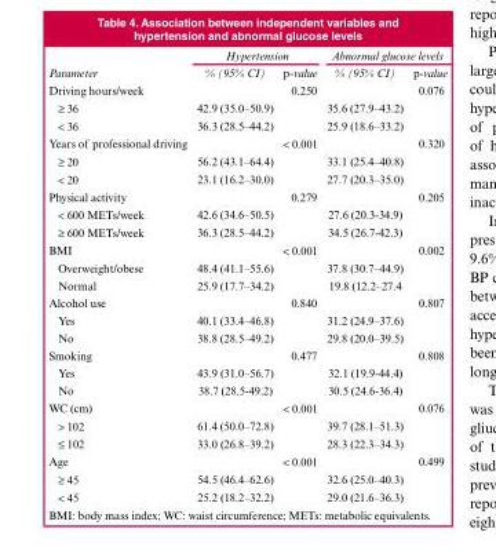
<table><thead><tr><td rowspan="2">Parameter</td><td colspan="2">Hypertension</td><td colspan="2">Abnormal glucose levels</td></tr><tr><td>% (95% CI)</td><td>p-value</td><td>% (95% CI)</td><td>p-value</td></tr></thead><tbody><tr><td>Driving hours/week</td><td></td><td>0.250</td><td></td><td>0.076</td></tr><tr><td>≥ 36</td><td>42.9 (35.0–50.9)</td><td></td><td>35.6 (27.9–43.2)</td><td></td></tr><tr><td>&lt; 36</td><td>36.3 (28.5–44.2)</td><td></td><td>25.9 (18.6–33.2)</td><td></td></tr><tr><td>Years of professional driving</td><td></td><td>&lt; 0.001</td><td></td><td>0.320</td></tr><tr><td>≥ 20</td><td>56.2 (43.1–64.4)</td><td></td><td>33.1 (25.4–40.8)</td><td></td></tr><tr><td>&lt; 20</td><td>23.1 (16.2–30.0)</td><td></td><td>27.7 (20.3–35.0)</td><td></td></tr><tr><td>Physical activity</td><td></td><td>0.279</td><td></td><td>0.205</td></tr><tr><td>&lt; 600 METs/week</td><td>42.6 (34.6–50.5)</td><td></td><td>27.6 (20.3-34.9)</td><td></td></tr><tr><td>≥ 600 METs/week</td><td>36.3 (28.5–44.2)</td><td></td><td>34.5 (26.7-42.3)</td><td></td></tr><tr><td>BMI</td><td></td><td>&lt; 0.001</td><td></td><td>0.002</td></tr><tr><td>Overweight/obese</td><td>48.4 (41.1–55.6)</td><td></td><td>37.8 (30.7–44.9)</td><td></td></tr><tr><td>Normal</td><td>25.9 (17.7–34.2)</td><td></td><td>19.8 (12.2–27.4</td><td></td></tr><tr><td>Alcohol use</td><td></td><td>0.840</td><td></td><td>0.807</td></tr><tr><td>Yes</td><td>40.1 (33.4–46.8)</td><td></td><td>31.2 (24.9–37.6)</td><td></td></tr><tr><td>No</td><td>38.8 (28.5–49.2)</td><td></td><td>29.8 (20.0–39.5)</td><td></td></tr><tr><td>Smoking</td><td></td><td>0.477</td><td></td><td>0.808</td></tr><tr><td>Yes</td><td>43.9 (31.0–56.7)</td><td></td><td>32.1 (19.9-44.4)</td><td></td></tr><tr><td>No</td><td>38.7 (28.5-49.2)</td><td></td><td>30.5 (24.6-36.4)</td><td></td></tr><tr><td>WC (cm)</td><td></td><td>&lt; 0.001</td><td></td><td>0.076</td></tr><tr><td>&gt; 102</td><td>61.4 (50.0–72.8)</td><td></td><td>39.7 (28.1–51.3)</td><td></td></tr><tr><td>≤ 102</td><td>33.0 (26.8–39.2)</td><td></td><td>28.3 (22.3–34.3)</td><td></td></tr><tr><td>Age</td><td></td><td>&lt; 0.001</td><td></td><td>0.499</td></tr><tr><td>≥ 45</td><td>54.5 (46.4–62.6)</td><td></td><td>32.6 (25.0–40.3)</td><td></td></tr><tr><td>&lt; 45</td><td>25.2 (18.2–32.2)</td><td></td><td>29.0 (21.6–36.3)</td><td></td></tr></tbody></table>